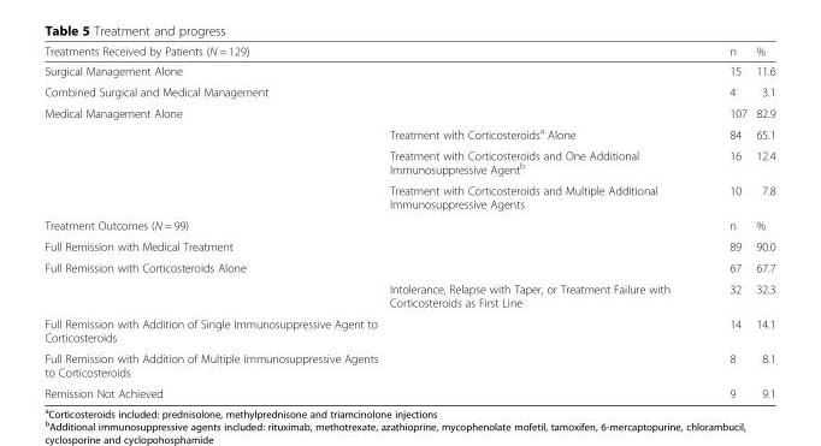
<table><thead><tr><td colspan="2">Treatments Received by Patients (N = 129)</td><td rowspan="2">n 15</td><td rowspan="2">% 11.6</td></tr><tr><td>Surgical Management Alone</td><td></td></tr></thead><tbody><tr><td>Combined Surgical and Medical Management</td><td></td><td>4</td><td>3.1</td></tr><tr><td rowspan="4">Medical Management Alone</td><td></td><td>107</td><td>82.9</td></tr><tr><td>Treatment with Corticosteroids<sup>a</sup> Alone</td><td>84</td><td>65.1</td></tr><tr><td>Treatment with Corticosteroids and One Additional Immunosuppressive Agent<sup>b</sup></td><td>16</td><td>12.4</td></tr><tr><td>Treatment with Corticosteroids and Multiple Additional Immunosuppressive Agents</td><td>10</td><td>7.8</td></tr><tr><td colspan="2">Treatment Outcomes (N = 99)</td><td>n</td><td>%</td></tr><tr><td>Full Remission with Medical Treatment</td><td></td><td>89</td><td>90.0</td></tr><tr><td rowspan="2">Full Remission with Corticosteroids Alone</td><td></td><td>67</td><td>67.7</td></tr><tr><td>Intolerance, Relapse with Taper, or Treatment Failure with Corticosteroids as First Line</td><td>32</td><td>32.3</td></tr><tr><td>Full Remission with Addition of Single Immunosuppressive Agent to Corticosteroids</td><td></td><td>14</td><td>14.1</td></tr><tr><td>Full Remission with Addition of Multiple Immunosuppressive Agents to Corticosteroids</td><td></td><td>8</td><td>8.1</td></tr><tr><td>Remission Not Achieved</td><td></td><td>9</td><td>9.1</td></tr></tbody></table>